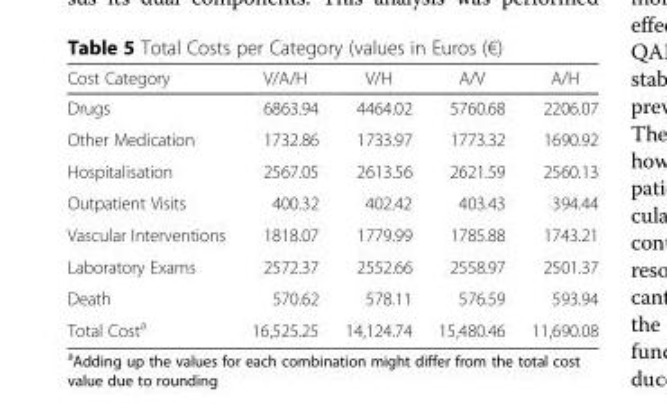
<table><thead><tr><td>Cost Category</td><td>V/A/H</td><td>V/H</td><td>A/V</td><td>A/H</td></tr></thead><tbody><tr><td>Drugs</td><td>6863.94</td><td>4464.02</td><td>5760.68</td><td>2206.07</td></tr><tr><td>Other Medication</td><td>1732.86</td><td>1733.97</td><td>1773.32</td><td>1690.92</td></tr><tr><td>Hospitalisation</td><td>2567.05</td><td>2613.56</td><td>2621.59</td><td>2560.13</td></tr><tr><td>Outpatient Visits</td><td>400.32</td><td>402.42</td><td>403.43</td><td>394.44</td></tr><tr><td>Vascular Interventions</td><td>1818.07</td><td>1779.99</td><td>1785.88</td><td>1743.21</td></tr><tr><td>Laboratory Exams</td><td>2572.37</td><td>2552.66</td><td>2558.97</td><td>2501.37</td></tr><tr><td>Death</td><td>570.62</td><td>578.11</td><td>576.59</td><td>593.94</td></tr><tr><td>Total Cost<sup>a</sup></td><td>16,525.25</td><td>14,124.74</td><td>15,480.46</td><td>11,690.08</td></tr></tbody></table>